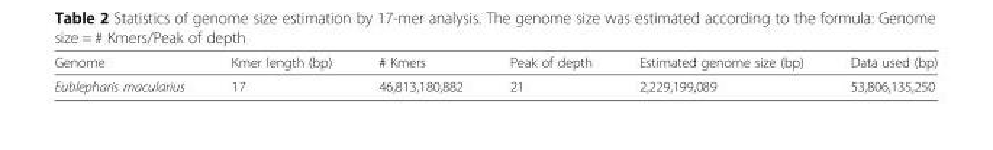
<table><thead><tr><td>Genome</td><td>Kmer length (bp)</td><td># Kmers</td><td>Peak of depth</td><td>Estimated genome size (bp)</td><td>Data used (bp)</td></tr></thead><tbody><tr><td>Eublepharis macularius</td><td>17</td><td>46,813,180,882</td><td>21</td><td>2,229,199,089</td><td>53,806,135,250</td></tr></tbody></table>